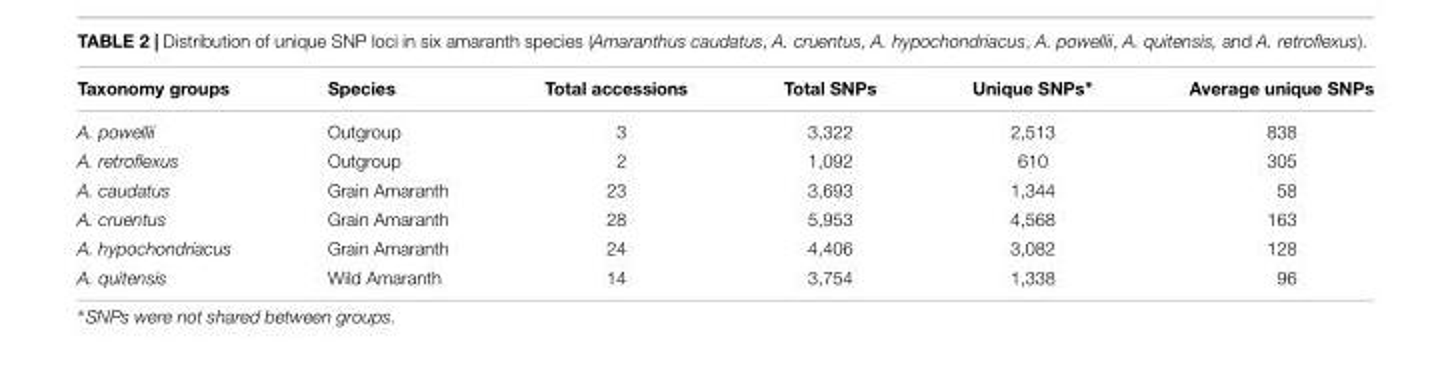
<table><thead><tr><td>Taxonomy groups</td><td>Species</td><td>Total accessions</td><td>Total SNPs</td><td>Unique SNPs∗</td><td>Average unique SNPs</td></tr></thead><tbody><tr><td>A. powellii</td><td>Outgroup</td><td>3</td><td>3,322</td><td>2,513</td><td>838</td></tr><tr><td>A. retroflexus</td><td>Outgroup</td><td>2</td><td>1,092</td><td>610</td><td>305</td></tr><tr><td>A. caudatus</td><td>Grain Amaranth</td><td>23</td><td>3,693</td><td>1,344</td><td>58</td></tr><tr><td>A. cruentus</td><td>Grain Amaranth</td><td>28</td><td>5,953</td><td>4,568</td><td>163</td></tr><tr><td>A. hypochondriacus</td><td>Grain Amaranth</td><td>24</td><td>4,406</td><td>3,082</td><td>128</td></tr><tr><td>A. quitensis</td><td>Wild Amaranth</td><td>14</td><td>3,754</td><td>1,338</td><td>96</td></tr></tbody></table>